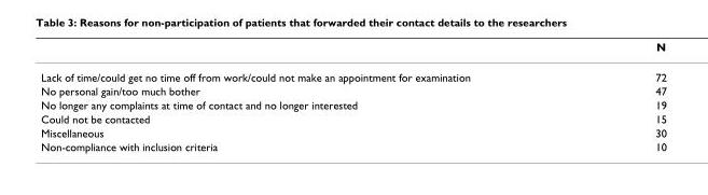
<table><thead><tr><td></td><td>N</td></tr></thead><tbody><tr><td>Lack of time/could get no time off from work/could not make an appointment for examination</td><td>72</td></tr><tr><td>No personal gain/too much bother</td><td>47</td></tr><tr><td>No longer any complaints at time of contact and no longer interested</td><td>19</td></tr><tr><td>Could not be contacted</td><td>15</td></tr><tr><td>Miscellaneous</td><td>30</td></tr><tr><td>Non-compliance with inclusion criteria</td><td>10</td></tr></tbody></table>